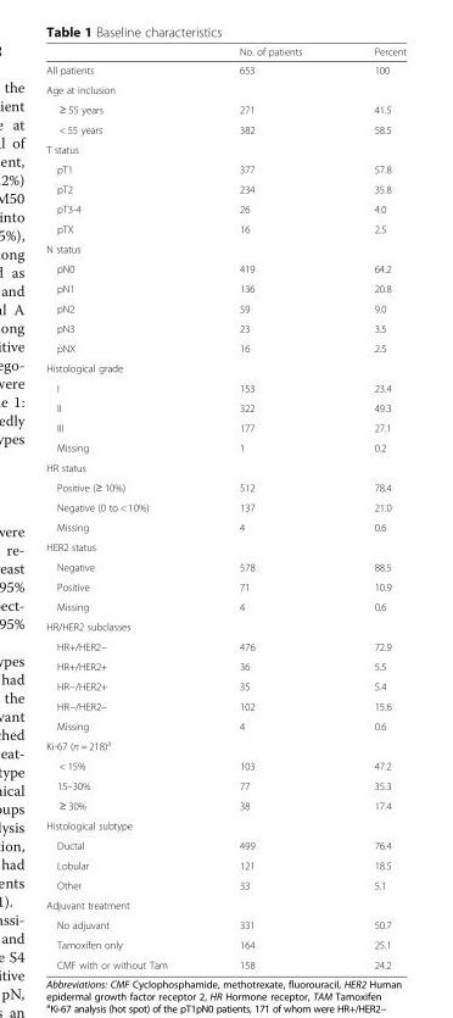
<table><thead><tr><td></td><td>No. of patients</td><td>Percent</td></tr></thead><tbody><tr><td>All patients</td><td>653</td><td>100</td></tr><tr><td colspan="3">Age at inclusion</td></tr><tr><td>≥ 55 years</td><td>271</td><td>41.5</td></tr><tr><td>&lt; 55 years</td><td>382</td><td>58.5</td></tr><tr><td colspan="3">T status</td></tr><tr><td>pT1</td><td>377</td><td>57.8</td></tr><tr><td>pT2</td><td>234</td><td>35.8</td></tr><tr><td>pT3-4</td><td>26</td><td>4.0</td></tr><tr><td>pTX</td><td>16</td><td>2.5</td></tr><tr><td colspan="3">N status</td></tr><tr><td>pN0</td><td>419</td><td>64.2</td></tr><tr><td>pN1</td><td>136</td><td>20.8</td></tr><tr><td>pN2</td><td>59</td><td>9.0</td></tr><tr><td>pN3</td><td>23</td><td>3.5</td></tr><tr><td>pNX</td><td>16</td><td>2.5</td></tr><tr><td colspan="3">Histological grade</td></tr><tr><td>I</td><td>153</td><td>23.4</td></tr><tr><td>II</td><td>322</td><td>49.3</td></tr><tr><td>III</td><td>177</td><td>27.1</td></tr><tr><td>Missing</td><td>1</td><td>0.2</td></tr><tr><td colspan="3">HR status</td></tr><tr><td>Positive (≥ 10%)</td><td>512</td><td>78.4</td></tr><tr><td>Negative (0 to &lt; 10%)</td><td>137</td><td>21.0</td></tr><tr><td>Missing</td><td>4</td><td>0.6</td></tr><tr><td colspan="3">HER2 status</td></tr><tr><td>Negative</td><td>578</td><td>88.5</td></tr><tr><td>Positive</td><td>71</td><td>10.9</td></tr><tr><td>Missing</td><td>4</td><td>0.6</td></tr><tr><td colspan="3">HR/HER2 subclasses</td></tr><tr><td>HR+/HER2−</td><td>476</td><td>72.9</td></tr><tr><td>HR+/HER2+</td><td>36</td><td>5.5</td></tr><tr><td>HR−/HER2+</td><td>35</td><td>5.4</td></tr><tr><td>HR−/HER2−</td><td>102</td><td>15.6</td></tr><tr><td>Missing</td><td>4</td><td>0.6</td></tr><tr><td colspan="3">Ki-67 (n = 218)<sup>a</sup></td></tr><tr><td>&lt; 15%</td><td>103</td><td>47.2</td></tr><tr><td>15–30%</td><td>77</td><td>35.3</td></tr><tr><td>≥ 30%</td><td>38</td><td>17.4</td></tr><tr><td colspan="3">Histological subtype</td></tr><tr><td>Ductal</td><td>499</td><td>76.4</td></tr><tr><td>Lobular</td><td>121</td><td>18.5</td></tr><tr><td>Other</td><td>33</td><td>5.1</td></tr><tr><td colspan="3">Adjuvant treatment</td></tr><tr><td>No adjuvant</td><td>331</td><td>50.7</td></tr><tr><td>Tamoxifen only</td><td>164</td><td>25.1</td></tr><tr><td>CMF with or without Tam</td><td>158</td><td>24.2</td></tr></tbody></table>